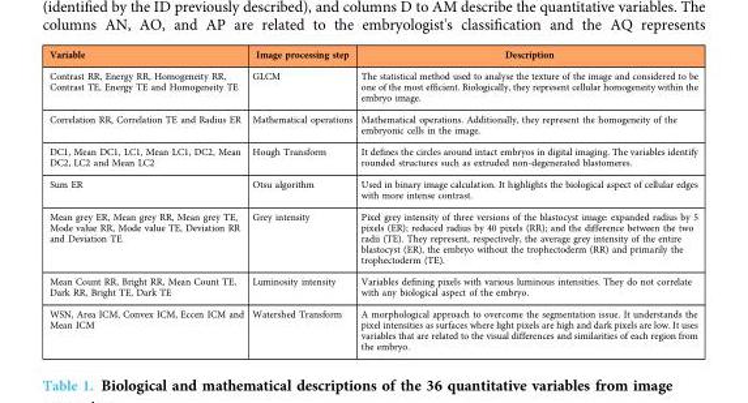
<table><thead><tr><td>Variable</td><td>Image processing step</td><td>Description</td></tr></thead><tbody><tr><td>Contrast RR, Energy RR, Homogeneity RR, Contrast TE, Energy TE and Homogeneity TE</td><td>GLCM</td><td>The statistical method used to analyse the texture of the image and considered to be one of the most efficient. Biologically, they represent cellular homogeneity within the embryo image.</td></tr><tr><td>Correlation RR, Correlation TE and Radius ER</td><td>Mathematical operations</td><td>Mathematical operations. Additionally, they represent the homogeneity of the embryonic cells in the image.</td></tr><tr><td>DC1, Mean DC1, LC1, Mean LC1, DC2, Mean DC2, LC2 and Mean LC2</td><td>Hough Transform</td><td>It defines the circles around intact embryos in digital imaging. The variables identify rounded structures such as extruded non-degenerated blastomeres.</td></tr><tr><td>Sum ER</td><td>Otsu algorithm</td><td>Used in binary image calculation. It highlights the biological aspect of cellular edges with more intense contrast.</td></tr><tr><td>Mean grey ER, Mean grey RR, Mean grey TE, Mode value RR, Mode value TE, Deviation RR and Deviation TE</td><td>Grey intensity</td><td>Pixel grey intensity of three versions of the blastocyst image: expanded radius by 5 pixels (ER); reduced radius by 40 pixels (RR); and the difference between the two radii (TE). They represent, respectively, the average grey intensity of the entire blastocyst (ER), the embryo without the trophectoderm (RR) and primarily the trophectoderm (TE).</td></tr><tr><td>Mean Count RR, Bright RR, Mean Count TE, Dark RR, Bright TE, Dark TE</td><td>Luminosity intensity</td><td>Variables defining pixels with various luminous intensities. They do not correlate with any biological aspect of the embryo.</td></tr><tr><td>WSN, Area ICM, Convex ICM, Eccen ICM and Mean ICM</td><td>Watershed Transform</td><td>A morphological approach to overcome the segmentation issue. It understands the pixel intensities as surfaces where light pixels are high and dark pixels are low. It uses variables that are related to the visual differences and similarities of each region from the embryo.</td></tr></tbody></table>